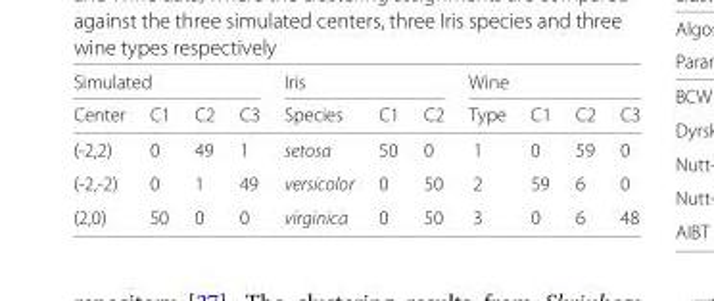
<table><thead><tr><td colspan="4">Simulated</td><td colspan="3">Iris</td><td colspan="4">Wine</td></tr><tr><td>Center</td><td>C1</td><td>C2</td><td>C3</td><td>Species</td><td>C1</td><td>C2</td><td>Type</td><td>C1</td><td>C2</td><td>C3</td></tr></thead><tbody><tr><td>(-2,2)</td><td>0</td><td>49</td><td>1</td><td>setosa</td><td>50</td><td>0</td><td>1</td><td>0</td><td>59</td><td>0</td></tr><tr><td>(-2,-2)</td><td>0</td><td>1</td><td>49</td><td>versicolor</td><td>0</td><td>50</td><td>2</td><td>59</td><td>6</td><td>0</td></tr><tr><td>(2,0)</td><td>50</td><td>0</td><td>0</td><td>virginica</td><td>0</td><td>50</td><td>3</td><td>0</td><td>6</td><td>48</td></tr></tbody></table>